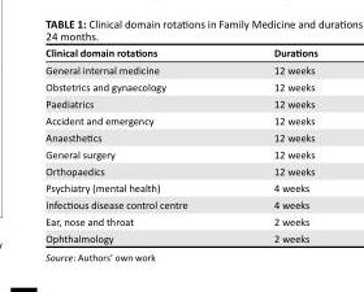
<table><thead><tr><td>Clinical domain rotations</td><td>Durations</td></tr></thead><tbody><tr><td>General internal medicine</td><td>12 weeks</td></tr><tr><td>Obstetrics and gynaecology</td><td>12 weeks</td></tr><tr><td>Paediatrics</td><td>12 weeks</td></tr><tr><td>Accident and emergency</td><td>12 weeks</td></tr><tr><td>Anaesthetics</td><td>12 weeks</td></tr><tr><td>General surgery</td><td>12 weeks</td></tr><tr><td>Orthopaedics</td><td>12 weeks</td></tr><tr><td>Psychiatry (mental health)</td><td>4 weeks</td></tr><tr><td>Infectious disease control centre</td><td>4 weeks</td></tr><tr><td>Ear, nose and throat</td><td>2 weeks</td></tr><tr><td>Ophthalmology</td><td>2 weeks</td></tr></tbody></table>